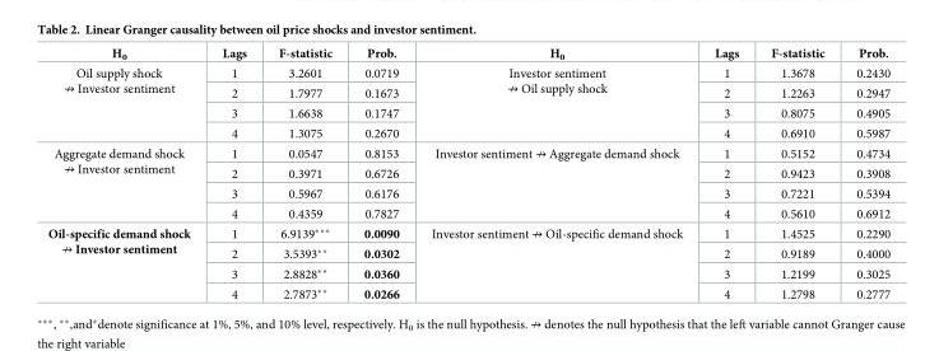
<table><thead><tr><td>H<sub>0</sub></td><td>Lags</td><td>F-statistic</td><td>Prob.</td><td>H<sub>0</sub></td><td>Lags</td><td>F-statistic</td><td>Prob.</td></tr></thead><tbody><tr><td rowspan="4">Oil supply shock ↛ Investor sentiment</td><td>1</td><td>3.2601</td><td>0.0719</td><td rowspan="4">Investor sentiment ↛ Oil supply shock</td><td>1</td><td>1.3678</td><td>0.2430</td></tr><tr><td>2</td><td>1.7977</td><td>0.1673</td><td>2</td><td>1.2263</td><td>0.2947</td></tr><tr><td>3</td><td>1.6638</td><td>0.1747</td><td>3</td><td>0.8075</td><td>0.4905</td></tr><tr><td>4</td><td>1.3075</td><td>0.2670</td><td>4</td><td>0.6910</td><td>0.5987</td></tr><tr><td rowspan="4">Aggregate demand shock ↛ Investor sentiment</td><td>1</td><td>0.0547</td><td>0.8153</td><td rowspan="4">Investor sentiment ↛ Aggregate demand shock</td><td>1</td><td>0.5152</td><td>0.4734</td></tr><tr><td>2</td><td>0.3971</td><td>0.6726</td><td>2</td><td>0.9423</td><td>0.3908</td></tr><tr><td>3</td><td>0.5967</td><td>0.6176</td><td>3</td><td>0.7221</td><td>0.5394</td></tr><tr><td>4</td><td>0.4359</td><td>0.7827</td><td>4</td><td>0.5610</td><td>0.6912</td></tr><tr><td rowspan="4">Oil-specific demand shock ↛ Investor sentiment</td><td>1</td><td>6.9139***</td><td>0.0090</td><td rowspan="4">Investor sentiment ↛ Oil-specific demand shock</td><td>1</td><td>1.4525</td><td>0.2290</td></tr><tr><td>2</td><td>3.5393**</td><td>0.0302</td><td>2</td><td>0.9189</td><td>0.4000</td></tr><tr><td>3</td><td>2.8828**</td><td>0.0360</td><td>3</td><td>1.2199</td><td>0.3025</td></tr><tr><td>4</td><td>2.7873**</td><td>0.0266</td><td>4</td><td>1.2798</td><td>0.2777</td></tr></tbody></table>